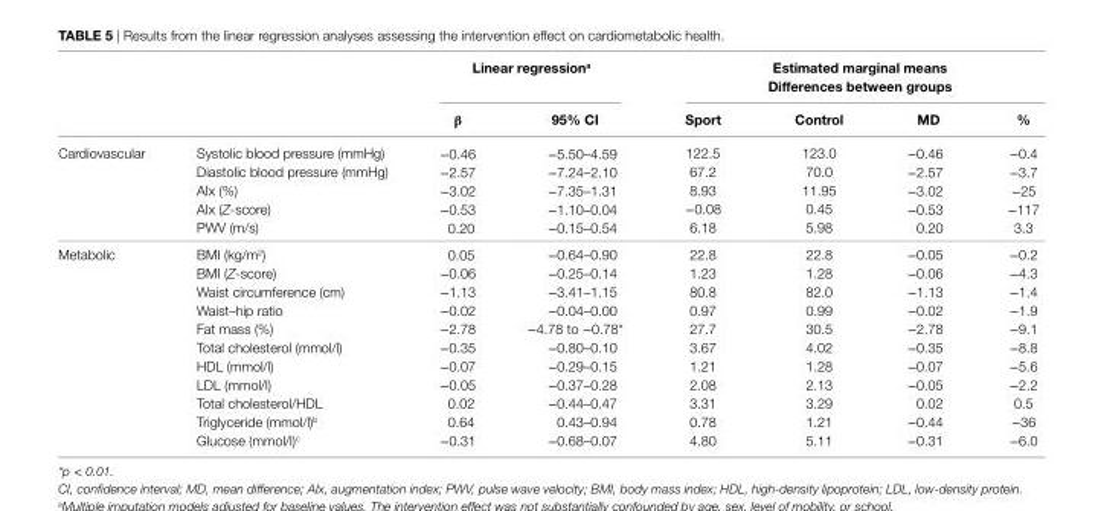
<table><thead><tr><td rowspan="2"></td><td rowspan="2"></td><td colspan="2">linear regression<sup>a</sup></td><td colspan="4">Estimated marginal means Differences between groups</td></tr><tr><td>β</td><td>95% Ci</td><td>Sport</td><td>Control</td><td>MD</td><td>%</td></tr></thead><tbody><tr><td>Cardiovascular</td><td>Systolic blood pressure (mmHg) Diastolic blood pressure (mmHg) AIx (%) AIx (Z-score) PWV (m/s)</td><td>−0.46 −2.57 −3.02 −0.53 0.20</td><td>−5.50–4.59 −7.24–2.10 −7.35–1.31 −1.10–0.04 −0.15–0.54</td><td>122.5 67.2 8.93 −0.08 6.18</td><td>123.0 70.0 11.95 0.45 5.98</td><td>−0.46 −2.57 −3.02 −0.53 0.20</td><td>−0.4 −3.7 −25 −117 3.3</td></tr><tr><td>Metabolic</td><td>BMI (kg/m<sup>2</sup>) BMI (Z-score) Waist circumference (cm) Waist–hip ratio Fat mass (%) Total cholesterol (mmol/l) HDL (mmol/l) LDL (mmol/l) Total cholesterol/HDL Triglyceride (mmol/l)<sup>b</sup> Glucose (mmol/l)<sup>c</sup></td><td>0.05 −0.06 −1.13 −0.02 −2.78 −0.35 −0.07 −0.05 0.02 0.64 −0.31</td><td>−0.64–0.90 −0.25–0.14 −3.41–1.15 −0.04–0.00 −4.78 to −0.78* −0.80–0.10 −0.29–0.15 −0.37–0.28 −0.44–0.47 0.43–0.94 −0.68–0.07</td><td>22.8 1.23 80.8 0.97 27.7 3.67 1.21 2.08 3.31 0.78 4.80</td><td>22.8 1.28 82.0 0.99 30.5 4.02 1.28 2.13 3.29 1.21 5.11</td><td>−0.05 −0.06 −1.13 −0.02 −2.78 −0.35 −0.07 −0.05 0.02 −0.44 −0.31</td><td>−0.2 −4.3 −1.4 −1.9 −9.1 −8.8 −5.6 −2.2 0.5 −36 −6.0</td></tr></tbody></table>